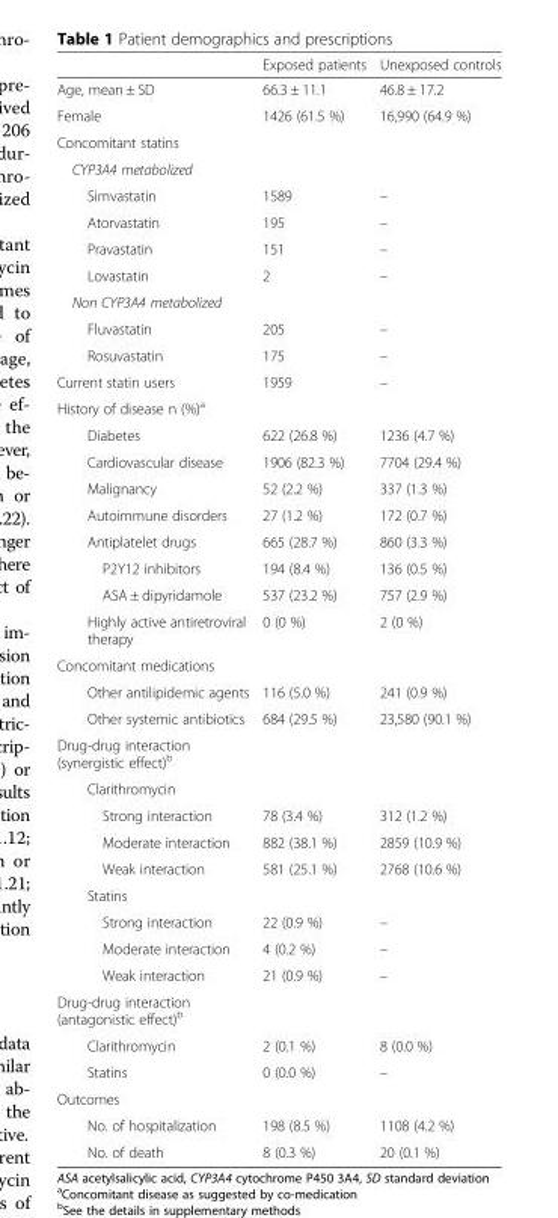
<table><thead><tr><td></td><td>Exposed patients</td><td>Unexposed controls</td></tr></thead><tbody><tr><td>Age, mean ± SD</td><td>66.3 ± 11.1</td><td>46.8 ± 17.2</td></tr><tr><td>Female</td><td>1426 (61.5 %)</td><td>16,990 (64.9 %)</td></tr><tr><td colspan="3">Concomitant statins</td></tr><tr><td colspan="3">CYP3A4 metabolized</td></tr><tr><td>Simvastatin</td><td>1589</td><td>–</td></tr><tr><td>Atorvastatin</td><td>195</td><td>–</td></tr><tr><td>Pravastatin</td><td>151</td><td>–</td></tr><tr><td>Lovastatin</td><td>2</td><td>–</td></tr><tr><td colspan="3">Non CYP3A4 metabolized</td></tr><tr><td>Fluvastatin</td><td>205</td><td>–</td></tr><tr><td>Rosuvastatin</td><td>175</td><td>–</td></tr><tr><td>Current statin users</td><td>1959</td><td>–</td></tr><tr><td colspan="3">History of disease n (%)<sup>a</sup></td></tr><tr><td>Diabetes</td><td>622 (26.8 %)</td><td>1236 (4.7 %)</td></tr><tr><td>Cardiovascular disease</td><td>1906 (82.3 %)</td><td>7704 (29.4 %)</td></tr><tr><td>Malignancy</td><td>52 (2.2 %)</td><td>337 (1.3 %)</td></tr><tr><td>Autoimmune disorders</td><td>27 (1.2 %)</td><td>172 (0.7 %)</td></tr><tr><td>Antiplatelet drugs</td><td>665 (28.7 %)</td><td>860 (3.3 %)</td></tr><tr><td>P2Y12 inhibitors</td><td>194 (8.4 %)</td><td>136 (0.5 %)</td></tr><tr><td>ASA ± dipyridamole</td><td>537 (23.2 %)</td><td>757 (2.9 %)</td></tr><tr><td>Highly active antiretroviral therapy</td><td>0 (0 %)</td><td>2 (0 %)</td></tr><tr><td colspan="3">Concomitant medications</td></tr><tr><td>Other antilipidemic agents</td><td>116 (5.0 %)</td><td>241 (0.9 %)</td></tr><tr><td>Other systemic antibiotics</td><td>684 (29.5 %)</td><td>23,580 (90.1 %)</td></tr><tr><td colspan="3">Drug-drug interaction (synergistic effect)<sup>b</sup></td></tr><tr><td colspan="3">Clarithromycin</td></tr><tr><td>Strong interaction</td><td>78 (3.4 %)</td><td>312 (1.2 %)</td></tr><tr><td>Moderate interaction</td><td>882 (38.1 %)</td><td>2859 (10.9 %)</td></tr><tr><td>Weak interaction</td><td>581 (25.1 %)</td><td>2768 (10.6 %)</td></tr><tr><td colspan="3">Statins</td></tr><tr><td>Strong interaction</td><td>22 (0.9 %)</td><td>–</td></tr><tr><td>Moderate interaction</td><td>4 (0.2 %)</td><td>–</td></tr><tr><td>Weak interaction</td><td>21 (0.9 %)</td><td>–</td></tr><tr><td colspan="3">Drug-drug interaction (antagonistic effect)<sup>b</sup></td></tr><tr><td>Clarithromycin</td><td>2 (0.1 %)</td><td>8 (0.0 %)</td></tr><tr><td>Statins</td><td>0 (0.0 %)</td><td>–</td></tr><tr><td colspan="3">Outcomes</td></tr><tr><td>No. of hospitalization</td><td>198 (8.5 %)</td><td>1108 (4.2 %)</td></tr><tr><td>No. of death</td><td>8 (0.3 %)</td><td>20 (0.1 %)</td></tr></tbody></table>